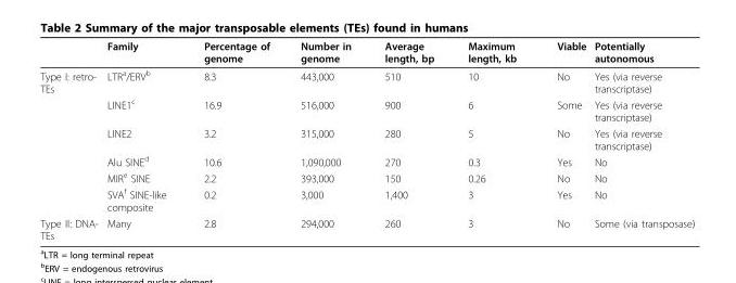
<table><thead><tr><td></td><td>Family</td><td>Percentage of genome</td><td>Number in genome</td><td>Average length, bp</td><td>Maximum length, kb</td><td>Viable</td><td>Potentially autonomous</td></tr></thead><tbody><tr><td rowspan="6">Type I: retro- TEs</td><td>LTR<sup>a</sup>/ERV<sup>b</sup></td><td>8.3</td><td>443,000</td><td>510</td><td>10</td><td>No</td><td>Yes (via reverse transcriptase)</td></tr><tr><td>LINE1<sup>c</sup></td><td>16.9</td><td>516,000</td><td>900</td><td>6</td><td>Some</td><td>Yes (via reverse transcriptase)</td></tr><tr><td>LINE2</td><td>3.2</td><td>315,000</td><td>280</td><td>5</td><td>No</td><td>Yes (via reverse transcriptase)</td></tr><tr><td>Alu SINE<sup>d</sup></td><td>10.6</td><td>1,090,000</td><td>270</td><td>0.3</td><td>Yes</td><td>No</td></tr><tr><td>MIR<sup>e</sup> SINE</td><td>2.2</td><td>393,000</td><td>150</td><td>0.26</td><td>No</td><td>No</td></tr><tr><td>SVA<sup>f</sup> SINE-like composite</td><td>0.2</td><td>3,000</td><td>1,400</td><td>3</td><td>Yes</td><td>No</td></tr><tr><td>Type II: DNA- TEs</td><td>Many</td><td>2.8</td><td>294,000</td><td>260</td><td>3</td><td>No</td><td>Some (via transposase)</td></tr></tbody></table>